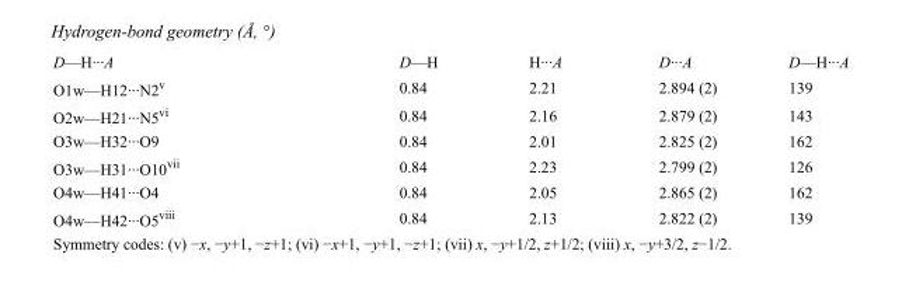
<table><tbody><tr><td>D—H···A</td><td>D—H</td><td>H···A</td><td>D···A</td><td>D—H···A</td></tr><tr><td>O1w—H12···N2<sup>v</sup></td><td>0.84</td><td>2.21</td><td>2.894 (2)</td><td>139</td></tr><tr><td>O2w—H21···N5<sup>vi</sup></td><td>0.84</td><td>2.16</td><td>2.879 (2)</td><td>143</td></tr><tr><td>O3w—H32···O9</td><td>0.84</td><td>2.01</td><td>2.825 (2)</td><td>162</td></tr><tr><td>O3w—H31···O10<sup>vii</sup></td><td>0.84</td><td>2.23</td><td>2.799 (2)</td><td>126</td></tr><tr><td>O4w—H41···O4</td><td>0.84</td><td>2.05</td><td>2.865 (2)</td><td>162</td></tr><tr><td>O4w—H42···O5<sup>viii</sup></td><td>0.84</td><td>2.13</td><td>2.822 (2)</td><td>139</td></tr></tbody></table>